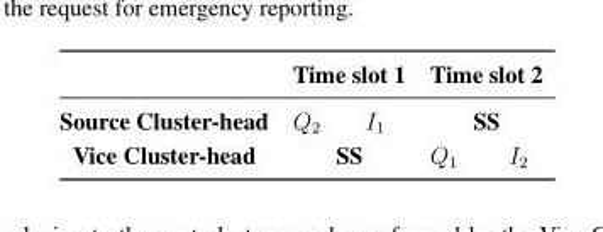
<table><thead><tr><td rowspan="3">Source Cluster-head Vice Cluster-head</td><td colspan="2">Time slot 1</td><td rowspan="2" colspan="2">Time slot 2 SS</td></tr><tr><td>Q<sub>2</sub></td><td>I<sub>1</sub></td></tr><tr><td colspan="2">SS</td><td>Q<sub>1</sub></td><td>I<sub>2</sub></td></tr></thead><tbody></tbody></table>